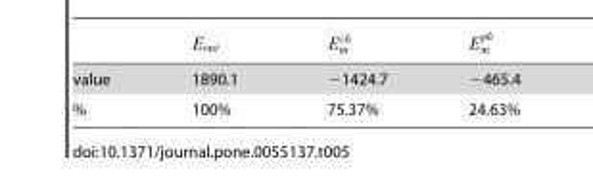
<table><tbody><tr><td>value</td><td>1890.1</td><td>−1424.7</td><td>−465.4</td></tr><tr><td>%</td><td>100%</td><td>75.37%</td><td>24.63%</td></tr></tbody></table>